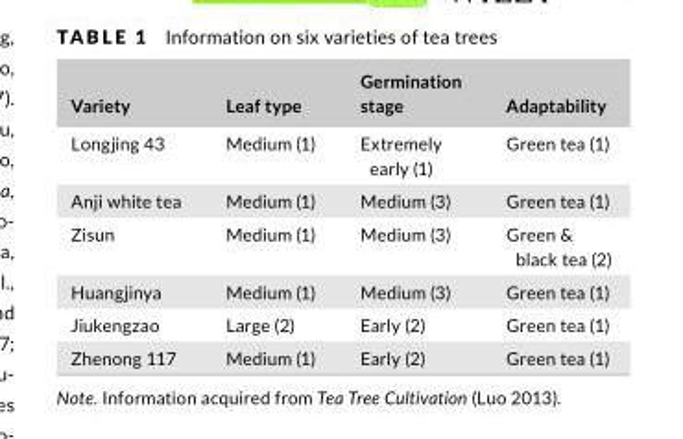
<table><thead><tr><td>Variety</td><td>Leaf type</td><td>Germination stage</td><td>Adaptability</td></tr></thead><tbody><tr><td>Longjing 43</td><td>Medium (1)</td><td>Extremely early (1)</td><td>Green tea (1)</td></tr><tr><td>Anji white tea</td><td>Medium (1)</td><td>Medium (3)</td><td>Green tea (1)</td></tr><tr><td>Zisun</td><td>Medium (1)</td><td>Medium (3)</td><td>Green &amp; black tea (2)</td></tr><tr><td>Huangjinya</td><td>Medium (1)</td><td>Medium (3)</td><td>Green tea (1)</td></tr><tr><td>Jiukengzao</td><td>Large (2)</td><td>Early (2)</td><td>Green tea (1)</td></tr><tr><td>Zhenong 117</td><td>Medium (1)</td><td>Early (2)</td><td>Green tea (1)</td></tr></tbody></table>